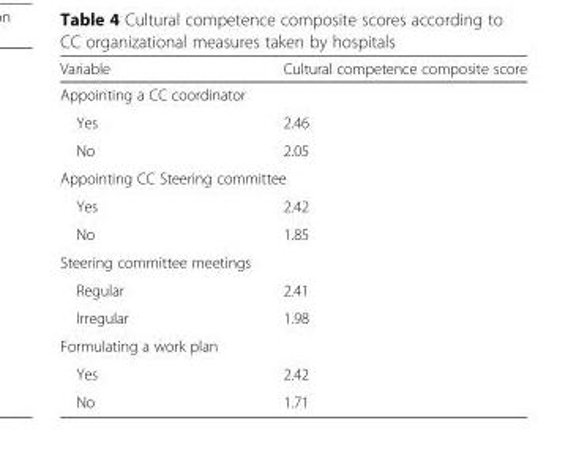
<table><thead><tr><td>Variable</td><td>Cultural competence composite score</td></tr></thead><tbody><tr><td colspan="2">Appointing a CC coordinator</td></tr><tr><td>Yes</td><td>2.46</td></tr><tr><td>No</td><td>2.05</td></tr><tr><td colspan="2">Appointing CC Steering committee</td></tr><tr><td>Yes</td><td>2.42</td></tr><tr><td>No</td><td>1.85</td></tr><tr><td colspan="2">Steering committee meetings</td></tr><tr><td>Regular</td><td>2.41</td></tr><tr><td>Irregular</td><td>1.98</td></tr><tr><td colspan="2">Formulating a work plan</td></tr><tr><td>Yes</td><td>2.42</td></tr><tr><td>No</td><td>1.71</td></tr></tbody></table>